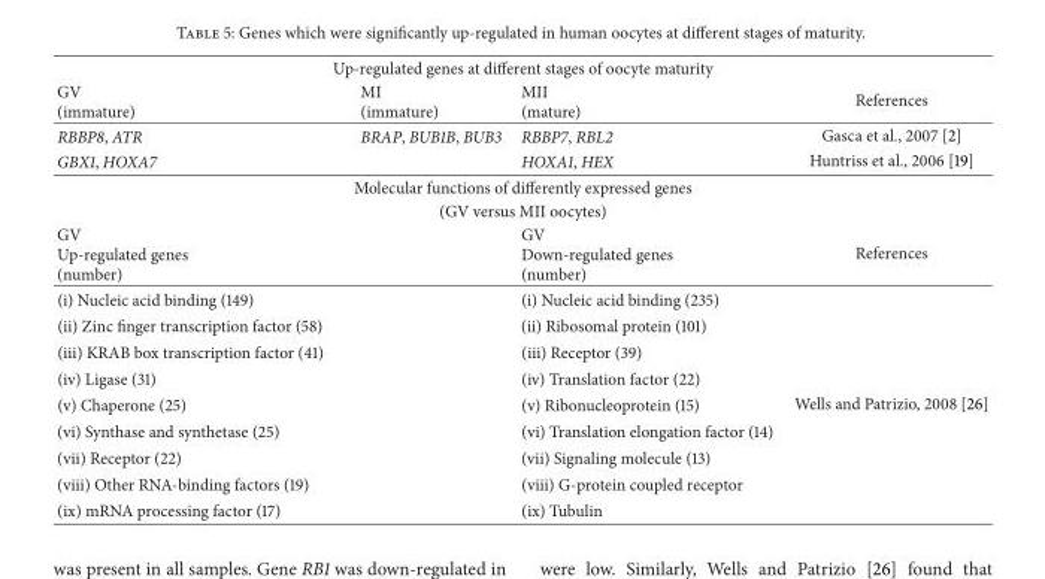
<table><thead><tr><td colspan="4">Up-regulated genes at different stages of oocyte maturity</td></tr><tr><td>GV (immature)</td><td>MI (immature)</td><td>MII (mature)</td><td>References</td></tr></thead><tbody><tr><td>RBBP8, ATR</td><td>BRAP, BUB1B, BUB3</td><td>RBBP7, RBL2</td><td>Gasca et al., 2007 [2]</td></tr><tr><td>GBX1, HOXA7</td><td></td><td>HOXA1, HEX</td><td>Huntriss et al., 2006 [19]</td></tr><tr><td colspan="4">Molecular functions of differently expressed genes</td></tr><tr><td colspan="4">(GV versus MII oocytes)</td></tr><tr><td>GV Up-regulated genes (number)</td><td></td><td>GV Down-regulated genes (number)</td><td>References</td></tr><tr><td>(i) Nucleic acid binding (149)</td><td></td><td>(i) Nucleic acid binding (235)</td><td></td></tr><tr><td>(ii) Zinc finger transcription factor (58)</td><td></td><td>(ii) Ribosomal protein (101)</td><td></td></tr><tr><td>(iii) KRAB box transcription factor (41)</td><td></td><td>(iii) Receptor (39)</td><td></td></tr><tr><td>(iv) Ligase (31)</td><td></td><td>(iv) Translation factor (22)</td><td></td></tr><tr><td>(v) Chaperone (25)</td><td></td><td>(v) Ribonucleoprotein (15)</td><td>Wells and Patrizio, 2008 [26]</td></tr><tr><td>(vi) Synthase and synthetase (25)</td><td></td><td>(vi) Translation elongation factor (14)</td><td></td></tr><tr><td>(vii) Receptor (22)</td><td></td><td>(vii) Signaling molecule (13)</td><td></td></tr><tr><td>(viii) Other RNA-binding factors (19)</td><td></td><td>(viii) G-protein coupled receptor</td><td></td></tr><tr><td>(ix) mRNA processing factor (17)</td><td></td><td>(ix) Tubulin</td><td></td></tr></tbody></table>